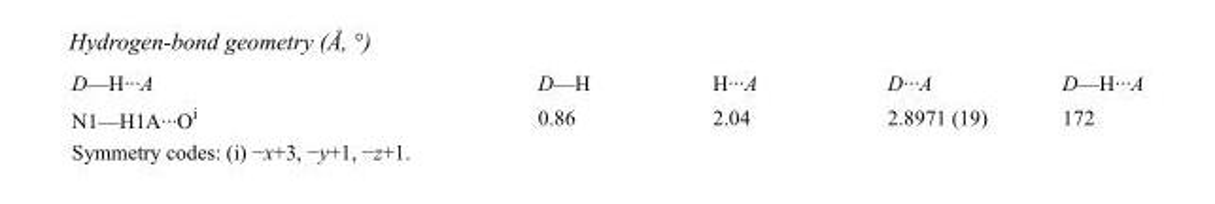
<table><tbody><tr><td>D—H···A</td><td>D—H</td><td>H···A</td><td>D···A</td><td>D—H···A</td></tr><tr><td>N1—H1A···O<sup>i</sup></td><td>0.86</td><td>2.04</td><td>2.8971 (19)</td><td>172</td></tr></tbody></table>